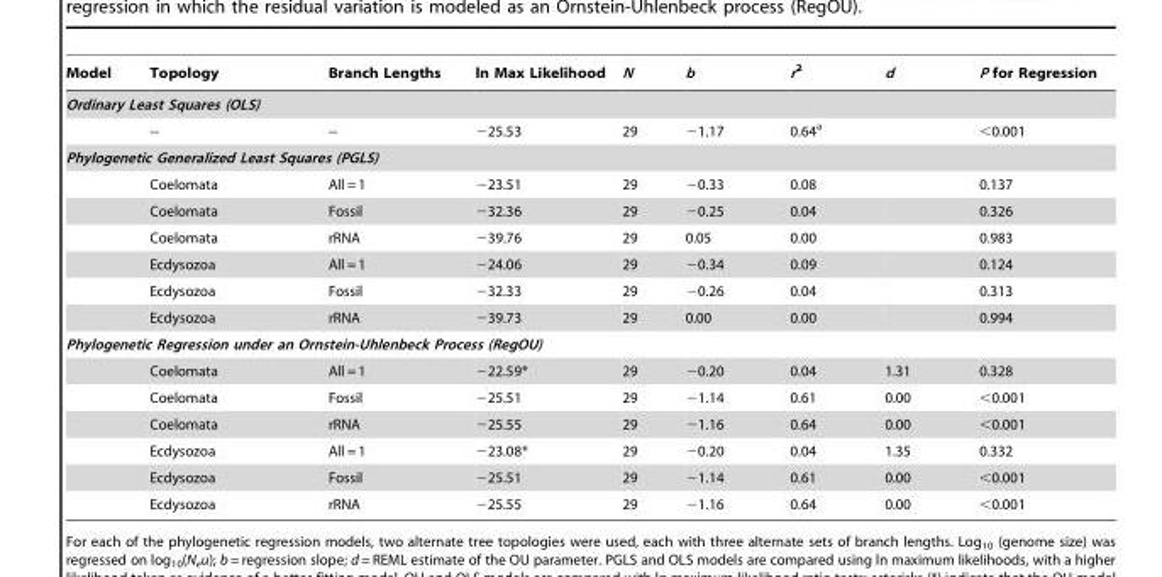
<table><thead><tr><td>Model</td><td>Topology</td><td>Branch Lengths</td><td>ln Max Likelihood</td><td>N</td><td>b</td><td>r<sup>2</sup></td><td>d</td><td>P for Regression</td></tr></thead><tbody><tr><td colspan="9">Ordinary Least Squares (OLS)</td></tr><tr><td></td><td>--</td><td>--</td><td>−25.53</td><td>29</td><td>−1.17</td><td>0.64<sup>a</sup></td><td></td><td>&lt;0.001</td></tr><tr><td colspan="9">Phylogenetic Generalized Least Squares (PGLS)</td></tr><tr><td></td><td>Coelomata</td><td>All = 1</td><td>−23.51</td><td>29</td><td>−0.33</td><td>0.08</td><td></td><td>0.137</td></tr><tr><td></td><td>Coelomata</td><td>Fossil</td><td>−32.36</td><td>29</td><td>−0.25</td><td>0.04</td><td></td><td>0.326</td></tr><tr><td></td><td>Coelomata</td><td>rRNA</td><td>−39.76</td><td>29</td><td>0.05</td><td>0.00</td><td></td><td>0.983</td></tr><tr><td></td><td>Ecdysozoa</td><td>All = 1</td><td>−24.06</td><td>29</td><td>−0.34</td><td>0.09</td><td></td><td>0.124</td></tr><tr><td></td><td>Ecdysozoa</td><td>Fossil</td><td>−32.33</td><td>29</td><td>−0.26</td><td>0.04</td><td></td><td>0.313</td></tr><tr><td></td><td>Ecdysozoa</td><td>rRNA</td><td>−39.73</td><td>29</td><td>0.00</td><td>0.00</td><td></td><td>0.994</td></tr><tr><td colspan="9">Phylogenetic Regression under an Ornstein-Uhlenbeck Process (RegOU)</td></tr><tr><td></td><td>Coelomata</td><td>All = 1</td><td>−22.59*</td><td>29</td><td>−0.20</td><td>0.04</td><td>1.31</td><td>0.328</td></tr><tr><td></td><td>Coelomata</td><td>Fossil</td><td>−25.51</td><td>29</td><td>−1.14</td><td>0.61</td><td>0.00</td><td>&lt;0.001</td></tr><tr><td></td><td>Coelomata</td><td>rRNA</td><td>−25.55</td><td>29</td><td>−1.16</td><td>0.64</td><td>0.00</td><td>&lt;0.001</td></tr><tr><td></td><td>Ecdysozoa</td><td>All = 1</td><td>−23.08*</td><td>29</td><td>−0.20</td><td>0.04</td><td>1.35</td><td>0.332</td></tr><tr><td></td><td>Ecdysozoa</td><td>Fossil</td><td>−25.51</td><td>29</td><td>−1.14</td><td>0.61</td><td>0.00</td><td>&lt;0.001</td></tr><tr><td></td><td>Ecdysozoa</td><td>rRNA</td><td>−25.55</td><td>29</td><td>−1.16</td><td>0.64</td><td>0.00</td><td>&lt;0.001</td></tr></tbody></table>